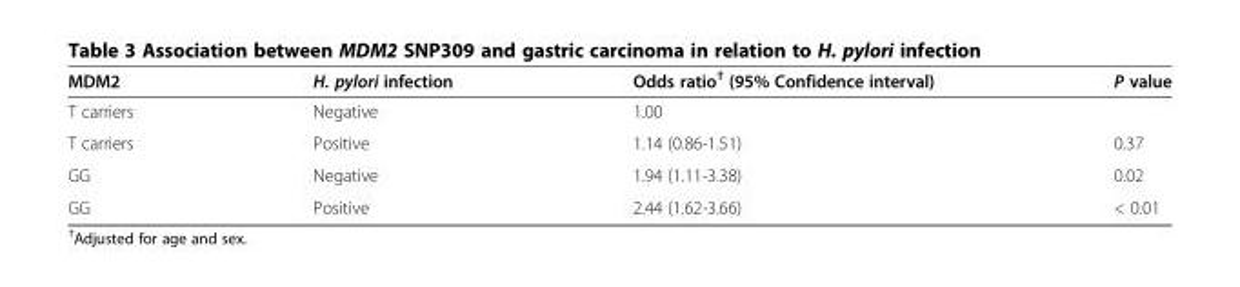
<table><thead><tr><td>MDM2</td><td>H. pylori infection</td><td>Odds ratio<sup>†</sup> (95% Confidence interval)</td><td>P value</td></tr></thead><tbody><tr><td>T carriers</td><td>Negative</td><td>1.00</td><td></td></tr><tr><td>T carriers</td><td>Positive</td><td>1.14 (0.86-1.51)</td><td>0.37</td></tr><tr><td>GG</td><td>Negative</td><td>1.94 (1.11-3.38)</td><td>0.02</td></tr><tr><td>GG</td><td>Positive</td><td>2.44 (1.62-3.66)</td><td>&lt; 0.01</td></tr></tbody></table>